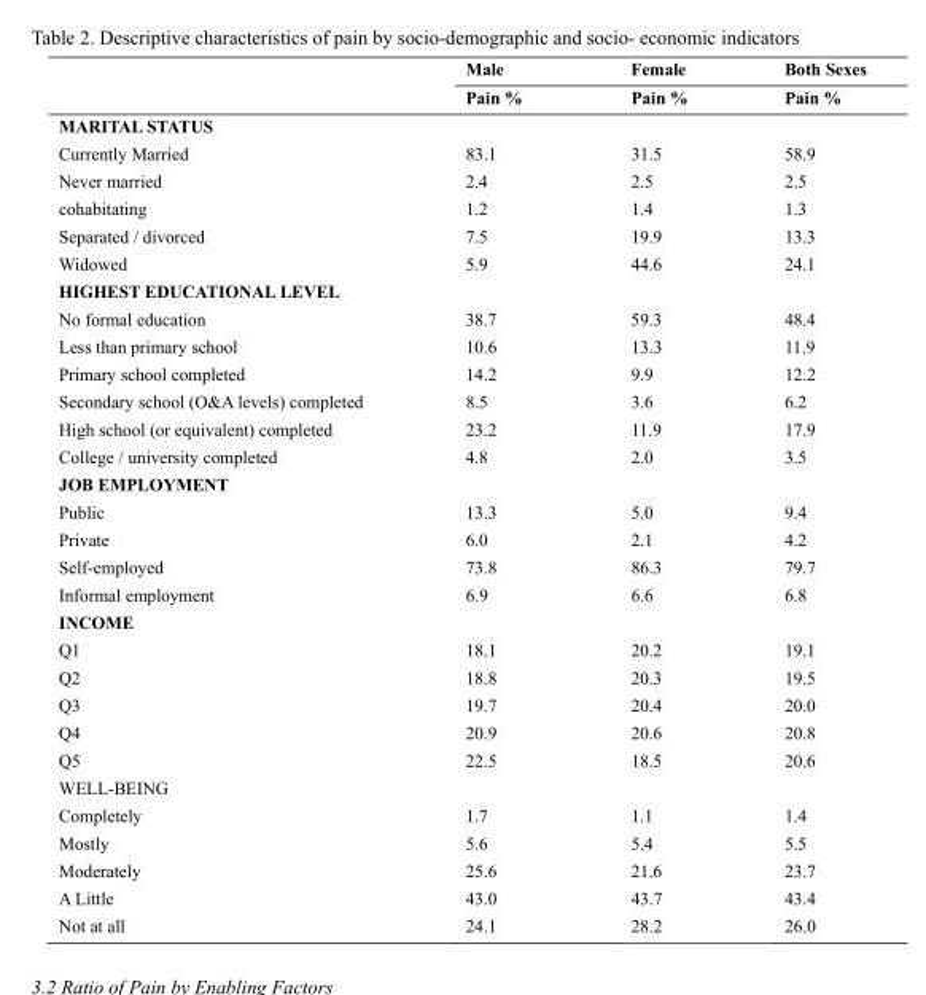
<table><thead><tr><td rowspan="2"></td><td rowspan="2">Male Pain %</td><td rowspan="2">Female Pain %</td><td rowspan="2">Both Sexes Pain %</td></tr><tr></tr></thead><tbody><tr><td colspan="4">MARITAL STATUS</td></tr><tr><td>Currently Married</td><td>83.1</td><td>31.5</td><td>58.9</td></tr><tr><td>Never married</td><td>2.4</td><td>2.5</td><td>2.5</td></tr><tr><td>cohabitating</td><td>1.2</td><td>1.4</td><td>1.3</td></tr><tr><td>Separated / divorced</td><td>7.5</td><td>19.9</td><td>13.3</td></tr><tr><td>Widowed</td><td>5.9</td><td>44.6</td><td>24.1</td></tr><tr><td colspan="4">HIGHEST EDUCATIONAL LEVEL</td></tr><tr><td>No formal education</td><td>38.7</td><td>59.3</td><td>48.4</td></tr><tr><td>Less than primary school</td><td>10.6</td><td>13.3</td><td>11.9</td></tr><tr><td>Primary school completed</td><td>14.2</td><td>9.9</td><td>12.2</td></tr><tr><td>Secondary school (O&amp;A levels) completed</td><td>8.5</td><td>3.6</td><td>6.2</td></tr><tr><td>High school (or equivalent) completed</td><td>23.2</td><td>11.9</td><td>17.9</td></tr><tr><td>College / university completed</td><td>4.8</td><td>2.0</td><td>3.5</td></tr><tr><td colspan="4">JOB EMPLOYMENT</td></tr><tr><td>Public</td><td>13.3</td><td>5.0</td><td>9.4</td></tr><tr><td>Private</td><td>6.0</td><td>2.1</td><td>4.2</td></tr><tr><td>Self-employed</td><td>73.8</td><td>86.3</td><td>79.7</td></tr><tr><td>Informal employment</td><td>6.9</td><td>6.6</td><td>6.8</td></tr><tr><td colspan="4">INCOME</td></tr><tr><td>Q1</td><td>18.1</td><td>20.2</td><td>19.1</td></tr><tr><td>Q2</td><td>18.8</td><td>20.3</td><td>19.5</td></tr><tr><td>Q3</td><td>19.7</td><td>20.4</td><td>20.0</td></tr><tr><td>Q4</td><td>20.9</td><td>20.6</td><td>20.8</td></tr><tr><td>Q5</td><td>22.5</td><td>18.5</td><td>20.6</td></tr><tr><td colspan="4">WELL-BEING</td></tr><tr><td>Completely</td><td>1.7</td><td>1.1</td><td>1.4</td></tr><tr><td>Mostly</td><td>5.6</td><td>5.4</td><td>5.5</td></tr><tr><td>Moderately</td><td>25.6</td><td>21.6</td><td>23.7</td></tr><tr><td>A Little</td><td>43.0</td><td>43.7</td><td>43.4</td></tr><tr><td>Not at all</td><td>24.1</td><td>28.2</td><td>26.0</td></tr></tbody></table>